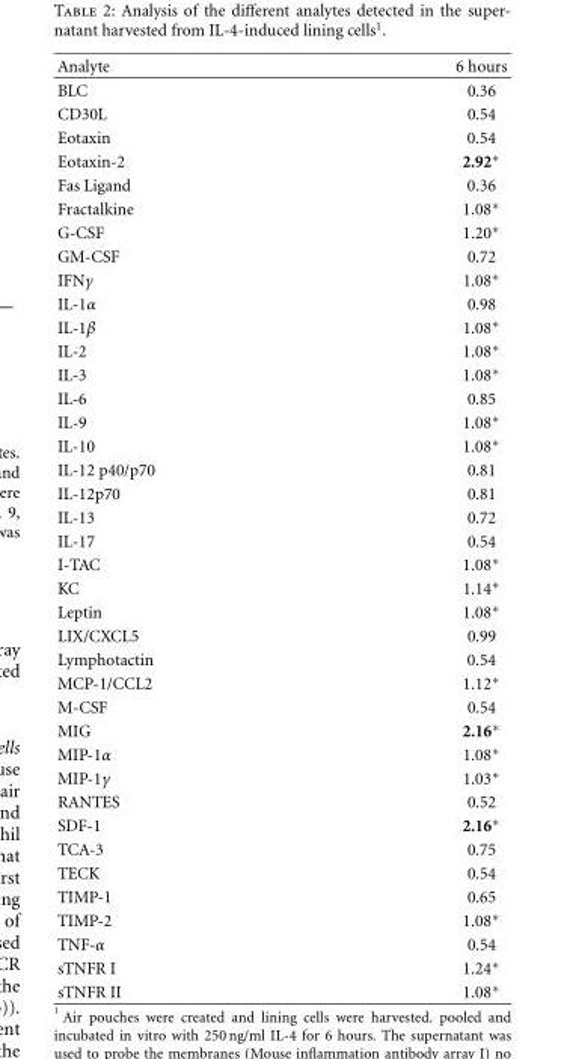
<table><thead><tr><td>Analyte</td><td>6 hours</td></tr></thead><tbody><tr><td>BLC</td><td>0.36</td></tr><tr><td>CD30L</td><td>0.54</td></tr><tr><td>Eotaxin</td><td>0.54</td></tr><tr><td>Eotaxin-2</td><td>2.92∗</td></tr><tr><td>Fas Ligand</td><td>0.36</td></tr><tr><td>Fractalkine</td><td>1.08∗</td></tr><tr><td>G-CSF</td><td>1.20∗</td></tr><tr><td>GM-CSF</td><td>0.72</td></tr><tr><td>IFNγ</td><td>1.08∗</td></tr><tr><td>IL-1α</td><td>0.98</td></tr><tr><td>IL-1β</td><td>1.08∗</td></tr><tr><td>IL-2</td><td>1.08∗</td></tr><tr><td>IL-3</td><td>1.08∗</td></tr><tr><td>IL-6</td><td>0.85</td></tr><tr><td>IL-9</td><td>1.08∗</td></tr><tr><td>IL-10</td><td>1.08∗</td></tr><tr><td>IL-12 p40/p70</td><td>0.81</td></tr><tr><td>IL-12p70</td><td>0.81</td></tr><tr><td>IL-13</td><td>0.72</td></tr><tr><td>IL-17</td><td>0.54</td></tr><tr><td>I-TAC</td><td>1.08∗</td></tr><tr><td>KC</td><td>1.14∗</td></tr><tr><td>Leptin</td><td>1.08∗</td></tr><tr><td>LIX/CXCL5</td><td>0.99</td></tr><tr><td>Lymphotactin</td><td>0.54</td></tr><tr><td>MCP-1/CCL2</td><td>1.12∗</td></tr><tr><td>M-CSF</td><td>0.54</td></tr><tr><td>MIG</td><td>2.16∗</td></tr><tr><td>MIP-1α</td><td>1.08∗</td></tr><tr><td>MIP-1γ</td><td>1.03∗</td></tr><tr><td>RANTES</td><td>0.52</td></tr><tr><td>SDF-1</td><td>2.16∗</td></tr><tr><td>TCA-3</td><td>0.75</td></tr><tr><td>TECK</td><td>0.54</td></tr><tr><td>TIMP-1</td><td>0.65</td></tr><tr><td>TIMP-2</td><td>1.08∗</td></tr><tr><td>TNF-α</td><td>0.54</td></tr><tr><td>sTNFR I</td><td>1.24∗</td></tr><tr><td>sTNFR II</td><td>1.08∗</td></tr></tbody></table>